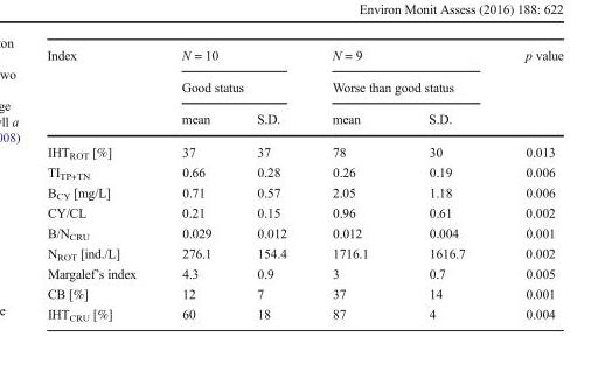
<table><thead><tr><td rowspan="3">Index</td><td rowspan="2" colspan="2">N = 10 Good status</td><td rowspan="2" colspan="2">N = 9 Worse than good status</td><td rowspan="3">p value</td></tr><tr></tr><tr><td>mean</td><td>S.D.</td><td>mean</td><td>S.D.</td></tr></thead><tbody><tr><td>IHT<sub>ROT</sub> [%]</td><td>37</td><td>37</td><td>78</td><td>30</td><td>0.013</td></tr><tr><td>TI<sub>TP+TN</sub></td><td>0.66</td><td>0.28</td><td>0.26</td><td>0.19</td><td>0.006</td></tr><tr><td>B<sub>CY</sub> [mg/L]</td><td>0.71</td><td>0.57</td><td>2.05</td><td>1.18</td><td>0.006</td></tr><tr><td>CY/CL</td><td>0.21</td><td>0.15</td><td>0.96</td><td>0.61</td><td>0.002</td></tr><tr><td>B/N<sub>CRU</sub></td><td>0.029</td><td>0.012</td><td>0.012</td><td>0.004</td><td>0.001</td></tr><tr><td>N<sub>ROT</sub> [ind./L]</td><td>276.1</td><td>154.4</td><td>1716.1</td><td>1616.7</td><td>0.002</td></tr><tr><td>Margalef’s index</td><td>4.3</td><td>0.9</td><td>3</td><td>0.7</td><td>0.005</td></tr><tr><td>CB [%]</td><td>12</td><td>7</td><td>37</td><td>14</td><td>0.001</td></tr><tr><td>IHT<sub>CRU</sub> [%]</td><td>60</td><td>18</td><td>87</td><td>4</td><td>0.004</td></tr></tbody></table>